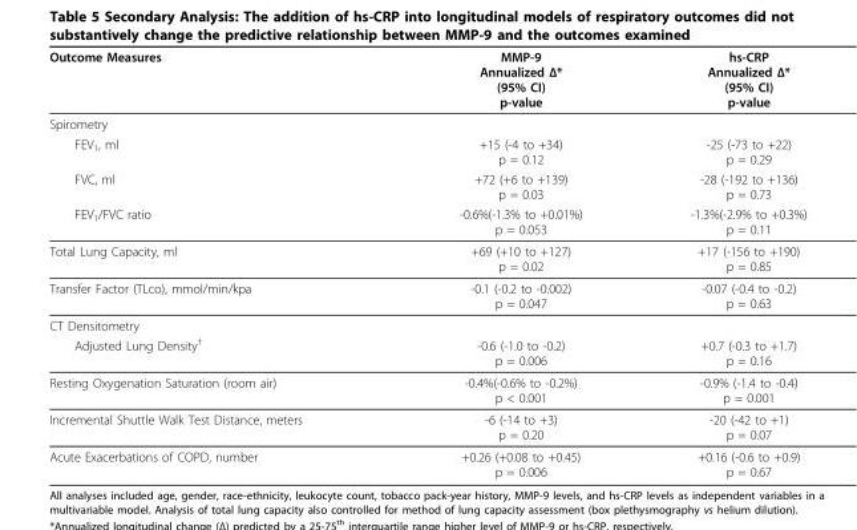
<table><thead><tr><td>Outcome Measures</td><td>MMP-9 Annualized Δ* (95% CI) p-value</td><td>hs-CRP Annualized Δ* (95% CI) p-value</td></tr></thead><tbody><tr><td colspan="3">Spirometry</td></tr><tr><td>FEV<sub>1</sub>, ml</td><td>+15 (-4 to +34) p = 0.12</td><td>-25 (-73 to +22) p = 0.29</td></tr><tr><td>FVC, ml</td><td>+72 (+6 to +139) p = 0.03</td><td>-28 (-192 to +136) p = 0.73</td></tr><tr><td>FEV<sub>1</sub>/FVC ratio</td><td>-0.6%(-1.3% to +0.01%) p = 0.053</td><td>-1.3%(-2.9% to +0.3%) p = 0.11</td></tr><tr><td>Total Lung Capacity, ml</td><td>+69 (+10 to +127) p = 0.02</td><td>+17 (-156 to +190) p = 0.85</td></tr><tr><td>Transfer Factor (TLco), mmol/min/kpa</td><td>-0.1 (-0.2 to -0.002) p = 0.047</td><td>-0.07 (-0.4 to -0.2) p = 0.63</td></tr><tr><td colspan="3">CT Densitometry</td></tr><tr><td>Adjusted Lung Density<sup>†</sup></td><td>-0.6 (-1.0 to -0.2) p = 0.006</td><td>+0.7 (-0.3 to +1.7) p = 0.16</td></tr><tr><td>Resting Oxygenation Saturation (room air)</td><td>-0.4%(-0.6% to -0.2%) p &lt; 0.001</td><td>-0.9% (-1.4 to -0.4) p = 0.001</td></tr><tr><td>Incremental Shuttle Walk Test Distance, meters</td><td>-6 (-14 to +3) p = 0.20</td><td>-20 (-42 to +1) p = 0.07</td></tr><tr><td>Acute Exacerbations of COPD, number</td><td>+0.26 (+0.08 to +0.45) p = 0.006</td><td>+0.16 (-0.6 to +0.9) p = 0.67</td></tr></tbody></table>